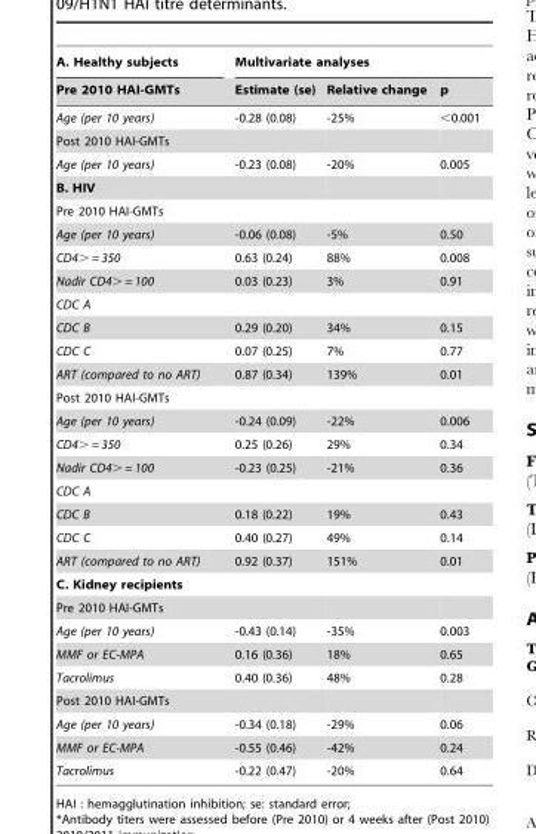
<table><thead><tr><td rowspan="2">A. Healthy subjects Pre 2010 HAI-GMTs</td><td colspan="3">Multivariate analyses</td></tr><tr><td>Estimate (se)</td><td>Relative change</td><td>p</td></tr></thead><tbody><tr><td>Age (per 10 years)</td><td>-0.28 (0.08)</td><td>-25%</td><td>&lt;0.001</td></tr><tr><td colspan="4">Post 2010 HAI-GMTs</td></tr><tr><td>Age (per 10 years)</td><td>-0.23 (0.08)</td><td>-20%</td><td>0.005</td></tr><tr><td colspan="4">B. HIV</td></tr><tr><td colspan="4">Pre 2010 HAI-GMTs</td></tr><tr><td>Age (per 10 years)</td><td>-0.06 (0.08)</td><td>-5%</td><td>0.50</td></tr><tr><td>CD4&gt; = 350</td><td>0.63 (0.24)</td><td>88%</td><td>0.008</td></tr><tr><td>Nadir CD4&gt; = 100</td><td>0.03 (0.23)</td><td>3%</td><td>0.91</td></tr><tr><td colspan="4">CDC A</td></tr><tr><td>CDC B</td><td>0.29 (0.20)</td><td>34%</td><td>0.15</td></tr><tr><td>CDC C</td><td>0.07 (0.25)</td><td>7%</td><td>0.77</td></tr><tr><td>ART (compared to no ART)</td><td>0.87 (0.34)</td><td>139%</td><td>0.01</td></tr><tr><td colspan="4">Post 2010 HAI-GMTs</td></tr><tr><td>Age (per 10 years)</td><td>-0.24 (0.09)</td><td>-22%</td><td>0.006</td></tr><tr><td>CD4&gt; = 350</td><td>0.25 (0.26)</td><td>29%</td><td>0.34</td></tr><tr><td>Nadir CD4&gt; = 100</td><td>-0.23 (0.25)</td><td>-21%</td><td>0.36</td></tr><tr><td colspan="4">CDC A</td></tr><tr><td>CDC B</td><td>0.18 (0.22)</td><td>19%</td><td>0.43</td></tr><tr><td>CDC C</td><td>0.40 (0.27)</td><td>49%</td><td>0.14</td></tr><tr><td>ART (compared to no ART)</td><td>0.92 (0.37)</td><td>151%</td><td>0.01</td></tr><tr><td colspan="4">C. Kidney recipients</td></tr><tr><td colspan="4">Pre 2010 HAI-GMTs</td></tr><tr><td>Age (per 10 years)</td><td>-0.43 (0.14)</td><td>-35%</td><td>0.003</td></tr><tr><td>MMF or EC-MPA</td><td>0.16 (0.36)</td><td>18%</td><td>0.65</td></tr><tr><td>Tacrolimus</td><td>0.40 (0.36)</td><td>48%</td><td>0.28</td></tr><tr><td colspan="4">Post 2010 HAI-GMTs</td></tr><tr><td>Age (per 10 years)</td><td>-0.34 (0.18)</td><td>-29%</td><td>0.06</td></tr><tr><td>MMF or EC-MPA</td><td>-0.55 (0.46)</td><td>-42%</td><td>0.24</td></tr><tr><td>Tacrolimus</td><td>-0.22 (0.47)</td><td>-20%</td><td>0.64</td></tr></tbody></table>